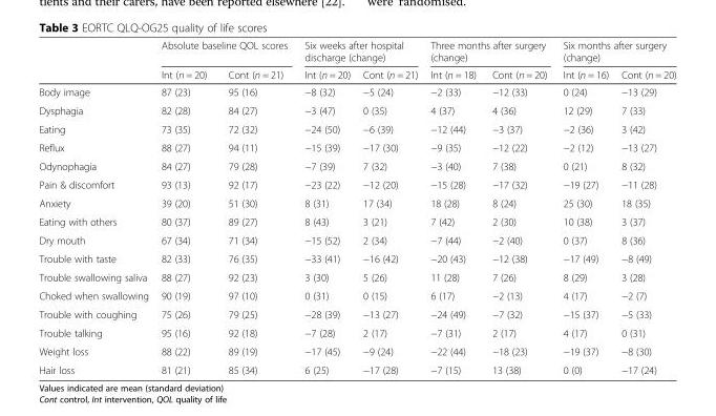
<table><thead><tr><td rowspan="2"></td><td colspan="2">Absolute baseline QOL scores</td><td colspan="2">Six weeks after hospital discharge (change)</td><td colspan="2">Three months after surgery (change)</td><td colspan="2">Six months after surgery (change)</td></tr><tr><td>Int (n = 20)</td><td>Cont (n = 21)</td><td>Int (n = 20)</td><td>Cont (n = 21)</td><td>Int (n = 18)</td><td>Cont (n = 20)</td><td>Int (n = 16)</td><td>Cont (n = 20)</td></tr></thead><tbody><tr><td>Body image</td><td>87 (23)</td><td>95 (16)</td><td>−8 (32)</td><td>−5 (24)</td><td>−2 (33)</td><td>−12 (33)</td><td>0 (24)</td><td>−13 (29)</td></tr><tr><td>Dysphagia</td><td>82 (28)</td><td>84 (27)</td><td>−3 (47)</td><td>0 (35)</td><td>4 (37)</td><td>4 (36)</td><td>12 (29)</td><td>7 (33)</td></tr><tr><td>Eating</td><td>73 (35)</td><td>72 (32)</td><td>−24 (50)</td><td>−6 (39)</td><td>−12 (44)</td><td>−3 (37)</td><td>−2 (36)</td><td>3 (42)</td></tr><tr><td>Reflux</td><td>88 (27)</td><td>94 (11)</td><td>−15 (39)</td><td>−17 (30)</td><td>−9 (35)</td><td>−12 (22)</td><td>−2 (12)</td><td>−13 (27)</td></tr><tr><td>Odynophagia</td><td>84 (27)</td><td>79 (28)</td><td>−7 (39)</td><td>7 (32)</td><td>−3 (40)</td><td>7 (38)</td><td>0 (21)</td><td>8 (32)</td></tr><tr><td>Pain &amp; discomfort</td><td>93 (13)</td><td>92 (17)</td><td>−23 (22)</td><td>−12 (20)</td><td>−15 (28)</td><td>−17 (32)</td><td>−19 (27)</td><td>−11 (28)</td></tr><tr><td>Anxiety</td><td>39 (20)</td><td>51 (30)</td><td>8 (31)</td><td>17 (34)</td><td>18 (28)</td><td>8 (24)</td><td>25 (30)</td><td>18 (35)</td></tr><tr><td>Eating with others</td><td>80 (37)</td><td>89 (27)</td><td>8 (43)</td><td>3 (21)</td><td>7 (42)</td><td>2 (30)</td><td>10 (38)</td><td>3 (37)</td></tr><tr><td>Dry mouth</td><td>67 (34)</td><td>71 (34)</td><td>−15 (52)</td><td>2 (34)</td><td>−7 (44)</td><td>−2 (40)</td><td>0 (37)</td><td>8 (36)</td></tr><tr><td>Trouble with taste</td><td>82 (33)</td><td>76 (35)</td><td>−33 (41)</td><td>−16 (42)</td><td>−20 (43)</td><td>−12 (38)</td><td>−17 (49)</td><td>−8 (49)</td></tr><tr><td>Trouble swallowing saliva</td><td>88 (27)</td><td>92 (23)</td><td>3 (30)</td><td>5 (26)</td><td>11 (28)</td><td>7 (26)</td><td>8 (29)</td><td>3 (28)</td></tr><tr><td>Choked when swallowing</td><td>90 (19)</td><td>97 (10)</td><td>0 (31)</td><td>0 (15)</td><td>6 (17)</td><td>−2 (13)</td><td>4 (17)</td><td>−2 (7)</td></tr><tr><td>Trouble with coughing</td><td>75 (26)</td><td>79 (25)</td><td>−28 (39)</td><td>−13 (27)</td><td>−24 (49)</td><td>−7 (32)</td><td>−15 (37)</td><td>−5 (33)</td></tr><tr><td>Trouble talking</td><td>95 (16)</td><td>92 (18)</td><td>−7 (28)</td><td>2 (17)</td><td>−7 (31)</td><td>2 (17)</td><td>4 (17)</td><td>0 (31)</td></tr><tr><td>Weight loss</td><td>88 (22)</td><td>89 (19)</td><td>−17 (45)</td><td>−9 (24)</td><td>−22 (44)</td><td>−18 (23)</td><td>−19 (37)</td><td>−8 (30)</td></tr><tr><td>Hair loss</td><td>81 (21)</td><td>85 (34)</td><td>6 (25)</td><td>−17 (28)</td><td>−7 (15)</td><td>13 (38)</td><td>0 (0)</td><td>−17 (24)</td></tr></tbody></table>